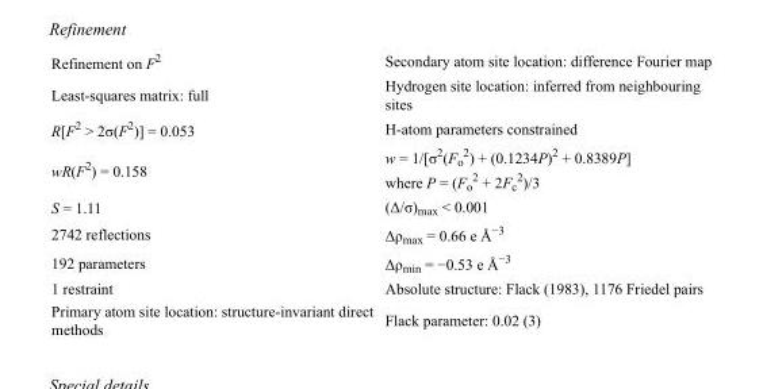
<table><tbody><tr><td>Refinement on F<sup>2</sup></td><td>Secondary atom site location: difference Fourier map</td></tr><tr><td>Least-squares matrix: full</td><td>Hydrogen site location: inferred from neighbouring sites</td></tr><tr><td>R[F<sup>2</sup> &gt; 2σ(F<sup>2</sup>)] = 0.053</td><td>H-atom parameters constrained</td></tr><tr><td>wR(F<sup>2</sup>) = 0.158</td><td>w = 1/[σ<sup>2</sup>(F<sub>o</sub> <sup>2</sup>) + (0.1234P)<sup>2</sup> + 0.8389P] where P = (F<sub>o</sub> <sup>2</sup> + 2F<sub>c</sub> <sup>2</sup>)/3</td></tr><tr><td>S = 1.11</td><td>(Δ/σ)<sub>max</sub> &lt; 0.001</td></tr><tr><td>2742 reflections</td><td>Δρ<sub>max</sub> = 0.66 e Å<sup>−3</sup></td></tr><tr><td>192 parameters</td><td>Δρ<sub>min</sub> = −0.53 e Å<sup>−3</sup></td></tr><tr><td>1 restraint</td><td>Absolute structure: Flack (1983), 1176 Friedel pairs</td></tr><tr><td>Primary atom site location: structure-invariant direct methods</td><td>Flack parameter: 0.02 (3)</td></tr></tbody></table>